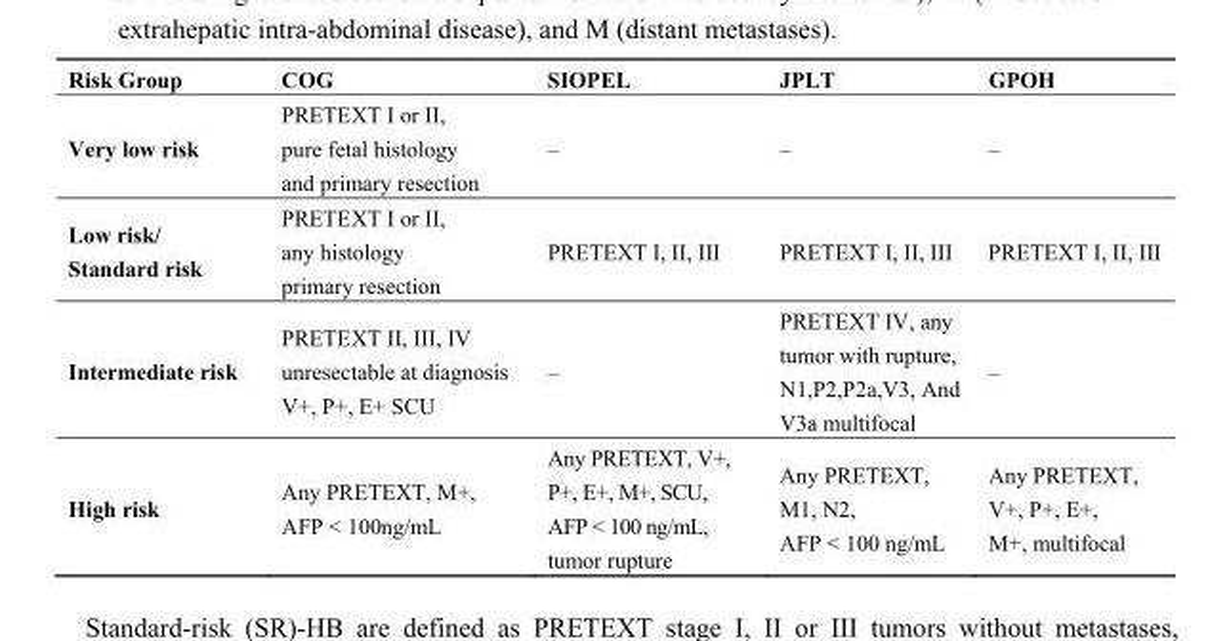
<table><thead><tr><td>Risk Group</td><td>COG</td><td>SIOPEL</td><td>JPLT</td><td>GPOH</td></tr></thead><tbody><tr><td>Very low risk</td><td>PRETEXT I or II, pure fetal histology and primary resection</td><td>–</td><td>–</td><td>–</td></tr><tr><td>Low risk/ Standard risk</td><td>PRETEXT I or II, any histology primary resection</td><td>PRETEXT I, II, III</td><td>PRETEXT I, II, III</td><td>PRETEXT I, II, III</td></tr><tr><td>Intermediate risk</td><td>PRETEXT II, III, IV unresectable at diagnosis V+, P+, E+ SCU</td><td>–</td><td>PRETEXT IV, any tumor with rupture, N1,P2,P2a,V3, And V3a multifocal</td><td>–</td></tr><tr><td>High risk</td><td>Any PRETEXT, M+, AFP &lt; 100ng/mL</td><td>Any PRETEXT, V+, P+, E+, M+, SCU, AFP &lt; 100 ng/mL, tumor rupture</td><td>Any PRETEXT, M1, N2, AFP &lt; 100 ng/mL</td><td>Any PRETEXT, V+, P+, E+, M+, multifocal</td></tr></tbody></table>